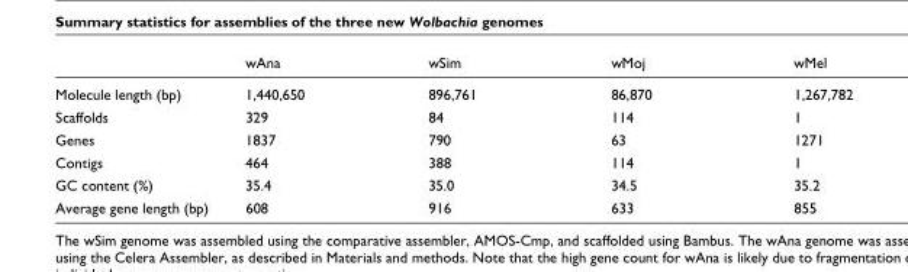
<table><thead><tr><td></td><td>wAna</td><td>wSim</td><td>wMoj</td><td>wMel</td></tr></thead><tbody><tr><td>Molecule length (bp)</td><td>1,440,650</td><td>896,761</td><td>86,870</td><td>1,267,782</td></tr><tr><td>Scaffolds</td><td>329</td><td>84</td><td>114</td><td>1</td></tr><tr><td>Genes</td><td>1837</td><td>790</td><td>63</td><td>1271</td></tr><tr><td>Contigs</td><td>464</td><td>388</td><td>114</td><td>1</td></tr><tr><td>GC content (%)</td><td>35.4</td><td>35.0</td><td>34.5</td><td>35.2</td></tr><tr><td>Average gene length (bp)</td><td>608</td><td>916</td><td>633</td><td>855</td></tr></tbody></table>